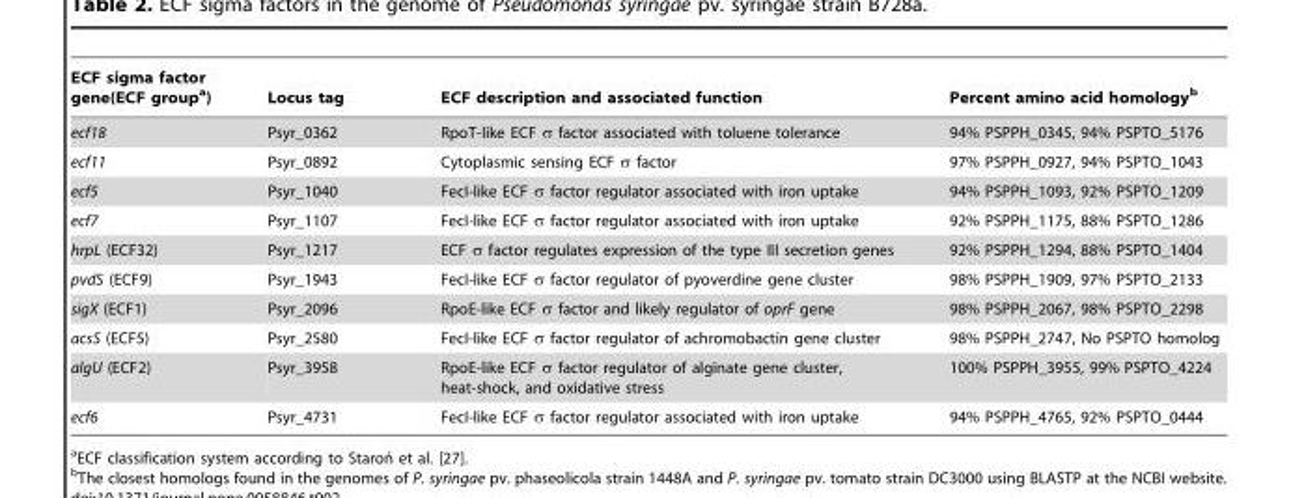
<table><thead><tr><td>ECF sigma factor gene(ECF group<sup>a</sup>)</td><td>Locus tag</td><td>ECF description and associated function</td><td>Percent amino acid homology<sup>b</sup></td></tr></thead><tbody><tr><td>ecf18</td><td>Psyr_0362</td><td>RpoT-like ECF σ factor associated with toluene tolerance</td><td>94% PSPPH_0345, 94% PSPTO_5176</td></tr><tr><td>ecf11</td><td>Psyr_0892</td><td>Cytoplasmic sensing ECF σ factor</td><td>97% PSPPH_0927, 94% PSPTO_1043</td></tr><tr><td>ecf5</td><td>Psyr_1040</td><td>FecI-like ECF σ factor regulator associated with iron uptake</td><td>94% PSPPH_1093, 92% PSPTO_1209</td></tr><tr><td>ecf7</td><td>Psyr_1107</td><td>FecI-like ECF σ factor regulator associated with iron uptake</td><td>92% PSPPH_1175, 88% PSPTO_1286</td></tr><tr><td>hrpL (ECF32)</td><td>Psyr_1217</td><td>ECF σ factor regulates expression of the type III secretion genes</td><td>92% PSPPH_1294, 88% PSPTO_1404</td></tr><tr><td>pvdS (ECF9)</td><td>Psyr_1943</td><td>FecI-like ECF σ factor regulator of pyoverdine gene cluster</td><td>98% PSPPH_1909, 97% PSPTO_2133</td></tr><tr><td>sigX (ECF1)</td><td>Psyr_2096</td><td>RpoE-like ECF σ factor and likely regulator of oprF gene</td><td>98% PSPPH_2067, 98% PSPTO_2298</td></tr><tr><td>acsS (ECF5)</td><td>Psyr_2580</td><td>FecI-like ECF σ factor regulator of achromobactin gene cluster</td><td>98% PSPPH_2747, No PSPTO homolog</td></tr><tr><td>algU (ECF2)</td><td>Psyr_3958</td><td>RpoE-like ECF σ factor regulator of alginate gene cluster, heat-shock, and oxidative stress</td><td>100% PSPPH_3955, 99% PSPTO_4224</td></tr><tr><td>ecf6</td><td>Psyr_4731</td><td>FecI-like ECF σ factor regulator associated with iron uptake</td><td>94% PSPPH_4765, 92% PSPTO_0444</td></tr></tbody></table>